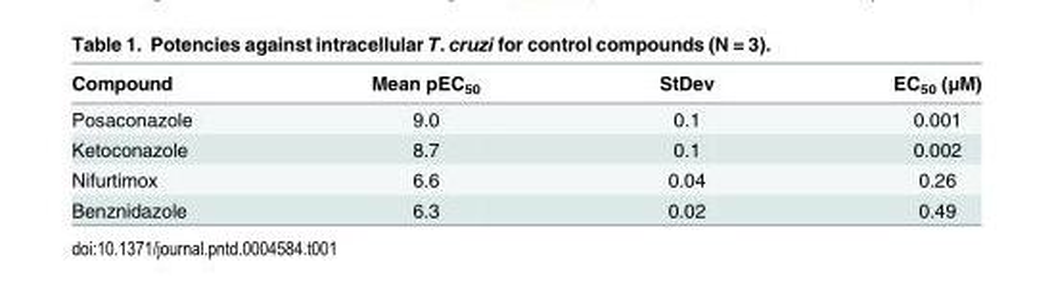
<table><thead><tr><td>Compound</td><td>Mean pEC<sub>50</sub></td><td>StDev</td><td>EC<sub>50</sub> (μM)</td></tr></thead><tbody><tr><td>Posaconazole</td><td>9.0</td><td>0.1</td><td>0.001</td></tr><tr><td>Ketoconazole</td><td>8.7</td><td>0.1</td><td>0.002</td></tr><tr><td>Nifurtimox</td><td>6.6</td><td>0.04</td><td>0.26</td></tr><tr><td>Benznidazole</td><td>6.3</td><td>0.02</td><td>0.49</td></tr></tbody></table>